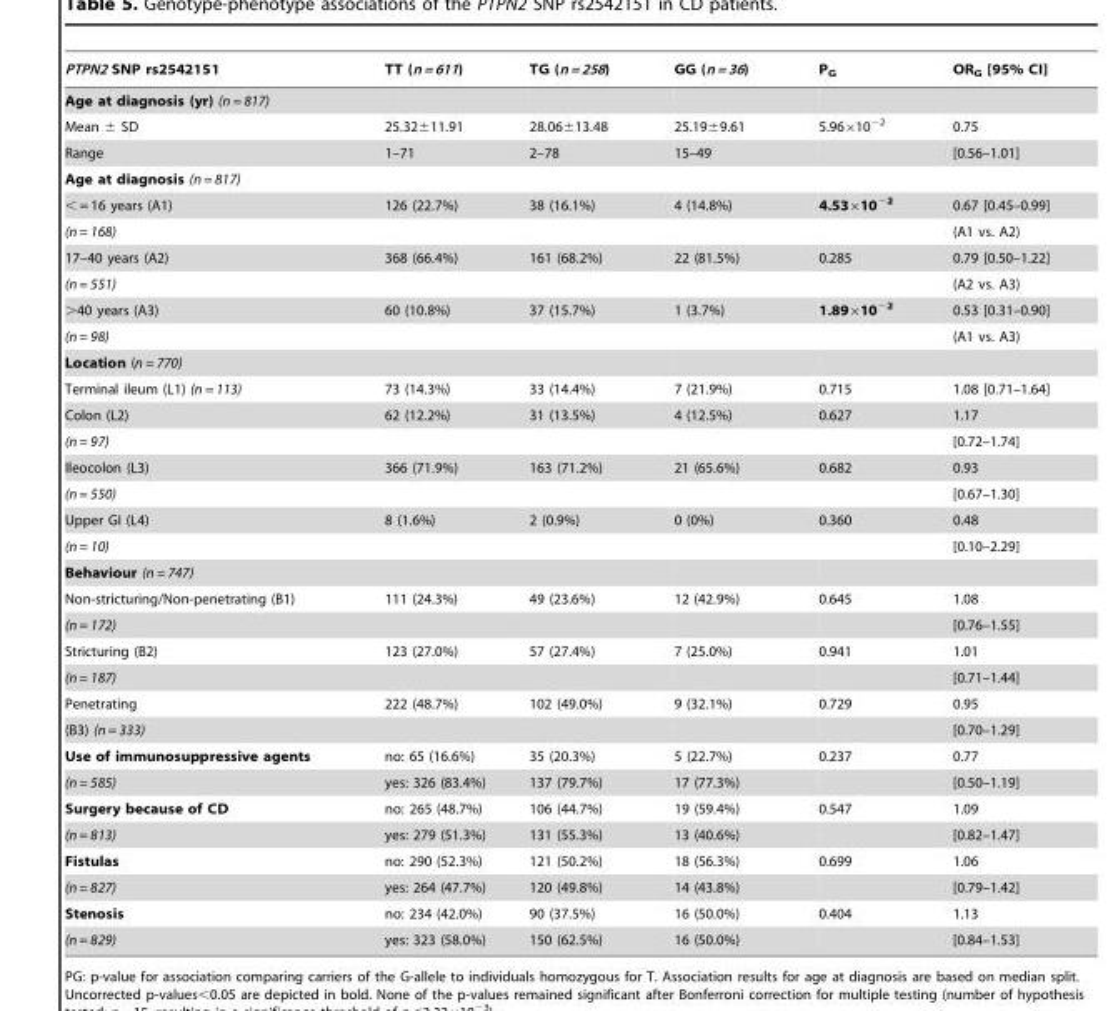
<table><thead><tr><td>PTPN2 SNP rs2542151</td><td>TT (n = 611)</td><td>TG (n = 258)</td><td>GG (n = 36)</td><td>P<sub>G</sub></td><td>OR<sub>G</sub> [95% CI]</td></tr></thead><tbody><tr><td colspan="6">Age at diagnosis (yr) (n = 817)</td></tr><tr><td>Mean ± SD</td><td>25.32±11.91</td><td>28.06±13.48</td><td>25.19±9.61</td><td>5.96×10<sup>−2</sup></td><td>0.75</td></tr><tr><td>Range</td><td>1–71</td><td>2–78</td><td>15–49</td><td></td><td>[0.56–1.01]</td></tr><tr><td colspan="6">Age at diagnosis (n = 817)</td></tr><tr><td>&lt; = 16 years (A1)</td><td>126 (22.7%)</td><td>38 (16.1%)</td><td>4 (14.8%)</td><td>4.53×10<sup>−2</sup></td><td>0.67 [0.45–0.99]</td></tr><tr><td>(n = 168)</td><td></td><td></td><td></td><td></td><td>(A1 vs. A2)</td></tr><tr><td>17–40 years (A2)</td><td>368 (66.4%)</td><td>161 (68.2%)</td><td>22 (81.5%)</td><td>0.285</td><td>0.79 [0.50–1.22]</td></tr><tr><td>(n = 551)</td><td></td><td></td><td></td><td></td><td>(A2 vs. A3)</td></tr><tr><td>&gt;40 years (A3)</td><td>60 (10.8%)</td><td>37 (15.7%)</td><td>1 (3.7%)</td><td>1.89×10<sup>−2</sup></td><td>0.53 [0.31–0.90]</td></tr><tr><td>(n = 98)</td><td></td><td></td><td></td><td></td><td>(A1 vs. A3)</td></tr><tr><td colspan="6">Location (n = 770)</td></tr><tr><td>Terminal ileum (L1) (n = 113)</td><td>73 (14.3%)</td><td>33 (14.4%)</td><td>7 (21.9%)</td><td>0.715</td><td>1.08 [0.71–1.64]</td></tr><tr><td>Colon (L2)</td><td>62 (12.2%)</td><td>31 (13.5%)</td><td>4 (12.5%)</td><td>0.627</td><td>1.17</td></tr><tr><td>(n = 97)</td><td></td><td></td><td></td><td></td><td>[0.72–1.74]</td></tr><tr><td>Ileocolon (L3)</td><td>366 (71.9%)</td><td>163 (71.2%)</td><td>21 (65.6%)</td><td>0.682</td><td>0.93</td></tr><tr><td>(n = 550)</td><td></td><td></td><td></td><td></td><td>[0.67–1.30]</td></tr><tr><td>Upper GI (L4)</td><td>8 (1.6%)</td><td>2 (0.9%)</td><td>0 (0%)</td><td>0.360</td><td>0.48</td></tr><tr><td>(n = 10)</td><td></td><td></td><td></td><td></td><td>[0.10–2.29]</td></tr><tr><td colspan="6">Behaviour (n = 747)</td></tr><tr><td>Non-stricturing/Non-penetrating (B1)</td><td>111 (24.3%)</td><td>49 (23.6%)</td><td>12 (42.9%)</td><td>0.645</td><td>1.08</td></tr><tr><td>(n = 172)</td><td></td><td></td><td></td><td></td><td>[0.76–1.55]</td></tr><tr><td>Stricturing (B2)</td><td>123 (27.0%)</td><td>57 (27.4%)</td><td>7 (25.0%)</td><td>0.941</td><td>1.01</td></tr><tr><td>(n = 187)</td><td></td><td></td><td></td><td></td><td>[0.71–1.44]</td></tr><tr><td>Penetrating</td><td>222 (48.7%)</td><td>102 (49.0%)</td><td>9 (32.1%)</td><td>0.729</td><td>0.95</td></tr><tr><td>(B3) (n = 333)</td><td></td><td></td><td></td><td></td><td>[0.70–1.29]</td></tr><tr><td>Use of immunosuppressive agents</td><td>no: 65 (16.6%)</td><td>35 (20.3%)</td><td>5 (22.7%)</td><td>0.237</td><td>0.77</td></tr><tr><td>(n = 585)</td><td>yes: 326 (83.4%)</td><td>137 (79.7%)</td><td>17 (77.3%)</td><td></td><td>[0.50–1.19]</td></tr><tr><td>Surgery because of CD</td><td>no: 265 (48.7%)</td><td>106 (44.7%)</td><td>19 (59.4%)</td><td>0.547</td><td>1.09</td></tr><tr><td>(n = 813)</td><td>yes: 279 (51.3%)</td><td>131 (55.3%)</td><td>13 (40.6%)</td><td></td><td>[0.82–1.47]</td></tr><tr><td>Fistulas</td><td>no: 290 (52.3%)</td><td>121 (50.2%)</td><td>18 (56.3%)</td><td>0.699</td><td>1.06</td></tr><tr><td>(n = 827)</td><td>yes: 264 (47.7%)</td><td>120 (49.8%)</td><td>14 (43.8%)</td><td></td><td>[0.79–1.42]</td></tr><tr><td>Stenosis</td><td>no: 234 (42.0%)</td><td>90 (37.5%)</td><td>16 (50.0%)</td><td>0.404</td><td>1.13</td></tr><tr><td>(n = 829)</td><td>yes: 323 (58.0%)</td><td>150 (62.5%)</td><td>16 (50.0%)</td><td></td><td>[0.84–1.53]</td></tr></tbody></table>